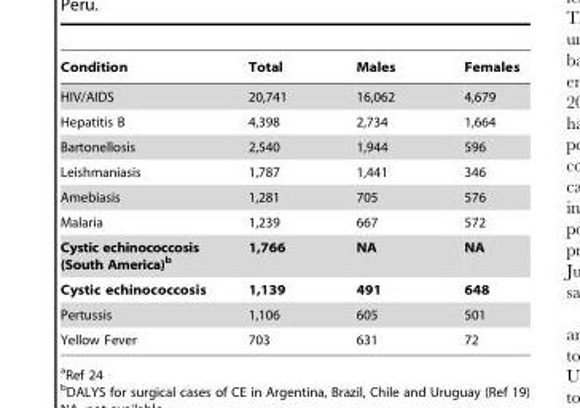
<table><thead><tr><td>Condition</td><td>Total</td><td>Males</td><td>Females</td></tr></thead><tbody><tr><td>HIV/AIDS</td><td>20,741</td><td>16,062</td><td>4,679</td></tr><tr><td>Hepatitis B</td><td>4,398</td><td>2,734</td><td>1,664</td></tr><tr><td>Bartonellosis</td><td>2,540</td><td>1,944</td><td>596</td></tr><tr><td>Leishmaniasis</td><td>1,787</td><td>1,441</td><td>346</td></tr><tr><td>Amebiasis</td><td>1,281</td><td>705</td><td>576</td></tr><tr><td>Malaria</td><td>1,239</td><td>667</td><td>572</td></tr><tr><td>Cystic echinococcosis (South America)b</td><td>1,766</td><td>NA</td><td>NA</td></tr><tr><td>Cystic echinococcosis</td><td>1,139</td><td>491</td><td>648</td></tr><tr><td>Pertussis</td><td>1,106</td><td>605</td><td>501</td></tr><tr><td>Yellow Fever</td><td>703</td><td>631</td><td>72</td></tr></tbody></table>